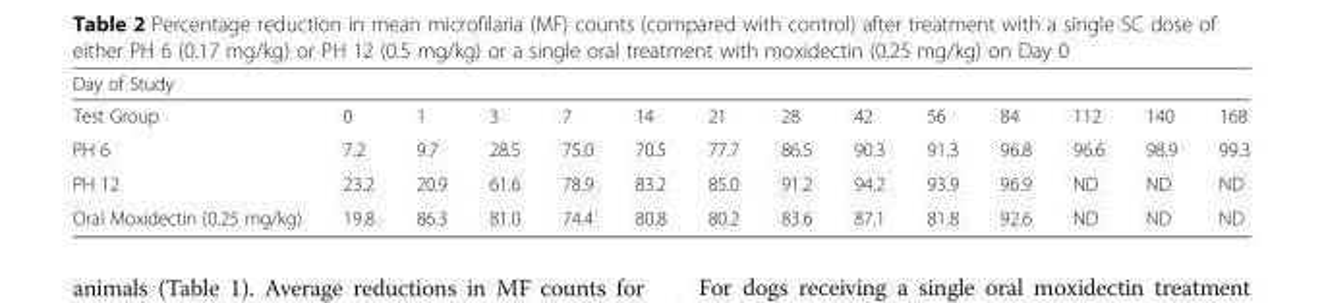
<table><thead><tr><td colspan="14">Day of Study</td></tr><tr><td>Test Group</td><td>0</td><td>1</td><td>3</td><td>7</td><td>14</td><td>21</td><td>28</td><td>42</td><td>56</td><td>84</td><td>112</td><td>140</td><td>168</td></tr></thead><tbody><tr><td>PH 6</td><td>7.2</td><td>9.7</td><td>28.5</td><td>75.0</td><td>70.5</td><td>77.7</td><td>86.5</td><td>90.3</td><td>91.3</td><td>96.8</td><td>96.6</td><td>98.9</td><td>99.3</td></tr><tr><td>PH 12</td><td>23.2</td><td>20.9</td><td>61.6</td><td>78.9</td><td>83.2</td><td>85.0</td><td>91.2</td><td>94.2</td><td>93.9</td><td>96.9</td><td>ND</td><td>ND</td><td>ND</td></tr><tr><td>Oral Moxidectin (0.25 mg/kg)</td><td>19.8</td><td>86.3</td><td>81.0</td><td>74.4</td><td>80.8</td><td>80.2</td><td>83.6</td><td>87.1</td><td>81.8</td><td>92.6</td><td>ND</td><td>ND</td><td>ND</td></tr></tbody></table>